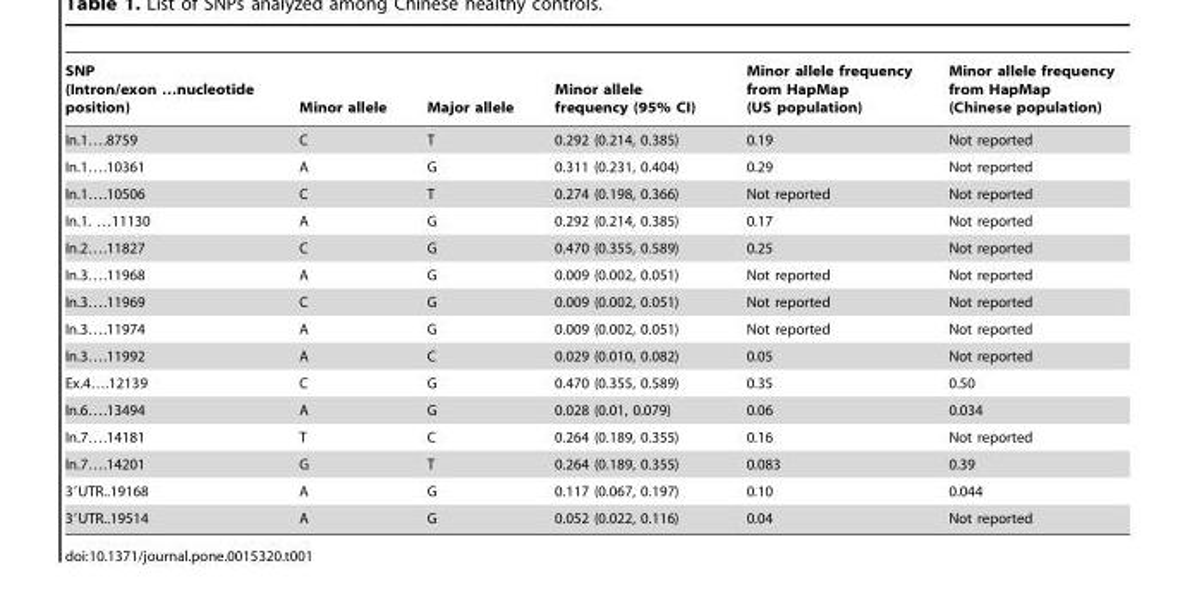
<table><thead><tr><td>SNP (Intron/exon …nucleotide position)</td><td>Minor allele</td><td>Major allele</td><td>Minor allele frequency (95% CI)</td><td>Minor allele frequency from HapMap (US population)</td><td>Minor allele frequency from HapMap (Chinese population)</td></tr></thead><tbody><tr><td>In.1….8759</td><td>C</td><td>T</td><td>0.292 (0.214, 0.385)</td><td>0.19</td><td>Not reported</td></tr><tr><td>In.1….10361</td><td>A</td><td>G</td><td>0.311 (0.231, 0.404)</td><td>0.29</td><td>Not reported</td></tr><tr><td>In.1….10506</td><td>C</td><td>T</td><td>0.274 (0.198, 0.366)</td><td>Not reported</td><td>Not reported</td></tr><tr><td>In.1. …11130</td><td>A</td><td>G</td><td>0.292 (0.214, 0.385)</td><td>0.17</td><td>Not reported</td></tr><tr><td>In.2….11827</td><td>C</td><td>G</td><td>0.470 (0.355, 0.589)</td><td>0.25</td><td>Not reported</td></tr><tr><td>In.3….11968</td><td>A</td><td>G</td><td>0.009 (0.002, 0.051)</td><td>Not reported</td><td>Not reported</td></tr><tr><td>In.3….11969</td><td>C</td><td>G</td><td>0.009 (0.002, 0.051)</td><td>Not reported</td><td>Not reported</td></tr><tr><td>In.3….11974</td><td>A</td><td>G</td><td>0.009 (0.002, 0.051)</td><td>Not reported</td><td>Not reported</td></tr><tr><td>In.3….11992</td><td>A</td><td>C</td><td>0.029 (0.010, 0.082)</td><td>0.05</td><td>Not reported</td></tr><tr><td>Ex.4….12139</td><td>C</td><td>G</td><td>0.470 (0.355, 0.589)</td><td>0.35</td><td>0.50</td></tr><tr><td>In.6….13494</td><td>A</td><td>G</td><td>0.028 (0.01, 0.079)</td><td>0.06</td><td>0.034</td></tr><tr><td>In.7….14181</td><td>T</td><td>C</td><td>0.264 (0.189, 0.355)</td><td>0.16</td><td>Not reported</td></tr><tr><td>In.7….14201</td><td>G</td><td>T</td><td>0.264 (0.189, 0.355)</td><td>0.083</td><td>0.39</td></tr><tr><td>3′UTR..19168</td><td>A</td><td>G</td><td>0.117 (0.067, 0.197)</td><td>0.10</td><td>0.044</td></tr><tr><td>3′UTR..19514</td><td>A</td><td>G</td><td>0.052 (0.022, 0.116)</td><td>0.04</td><td>Not reported</td></tr></tbody></table>